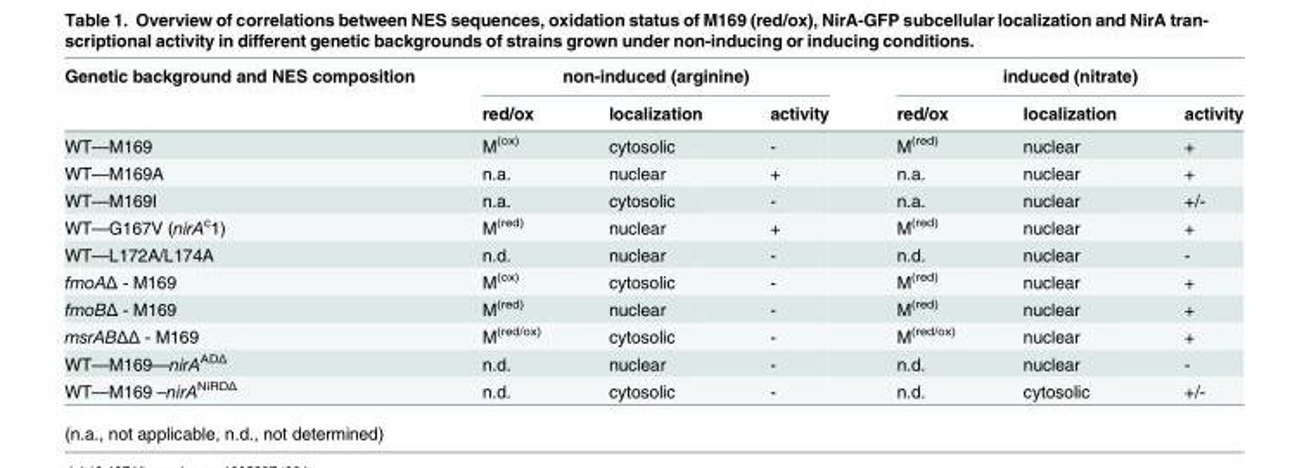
<table><thead><tr><td rowspan="2">Genetic background and NES composition</td><td colspan="3">non-induced (arginine)</td><td colspan="3">induced (nitrate)</td></tr><tr><td>red/ox</td><td>localization</td><td>activity</td><td>red/ox</td><td>localization</td><td>activity</td></tr></thead><tbody><tr><td>WT—M169</td><td>M<sup>(ox)</sup></td><td>cytosolic</td><td>-</td><td>M<sup>(red)</sup></td><td>nuclear</td><td>+</td></tr><tr><td>WT—M169A</td><td>n.a.</td><td>nuclear</td><td>+</td><td>n.a.</td><td>nuclear</td><td>+</td></tr><tr><td>WT—M169I</td><td>n.a.</td><td>cytosolic</td><td>-</td><td>n.a.</td><td>nuclear</td><td>+/-</td></tr><tr><td>WT—G167V (nirA<sup>c</sup>1)</td><td>M<sup>(red)</sup></td><td>nuclear</td><td>+</td><td>M<sup>(red)</sup></td><td>nuclear</td><td>+</td></tr><tr><td>WT—L172A/L174A</td><td>n.d.</td><td>nuclear</td><td>-</td><td>n.d.</td><td>nuclear</td><td>-</td></tr><tr><td>fmoAΔ - M169</td><td>M<sup>(ox)</sup></td><td>cytosolic</td><td>-</td><td>M<sup>(red)</sup></td><td>nuclear</td><td>+</td></tr><tr><td>fmoBΔ - M169</td><td>M<sup>(red)</sup></td><td>nuclear</td><td>-</td><td>M<sup>(red)</sup></td><td>nuclear</td><td>+</td></tr><tr><td>msrABΔΔ - M169</td><td>M<sup>(red/ox)</sup></td><td>cytosolic</td><td>-</td><td>M<sup>(red/ox)</sup></td><td>nuclear</td><td>+</td></tr><tr><td>WT—M169—nirA<sup>ADΔ</sup></td><td>n.d.</td><td>nuclear</td><td>-</td><td>n.d.</td><td>nuclear</td><td>-</td></tr><tr><td>WT—M169 –nirA<sup>NiRDΔ</sup></td><td>n.d.</td><td>cytosolic</td><td>-</td><td>n.d.</td><td>cytosolic</td><td>+/-</td></tr></tbody></table>